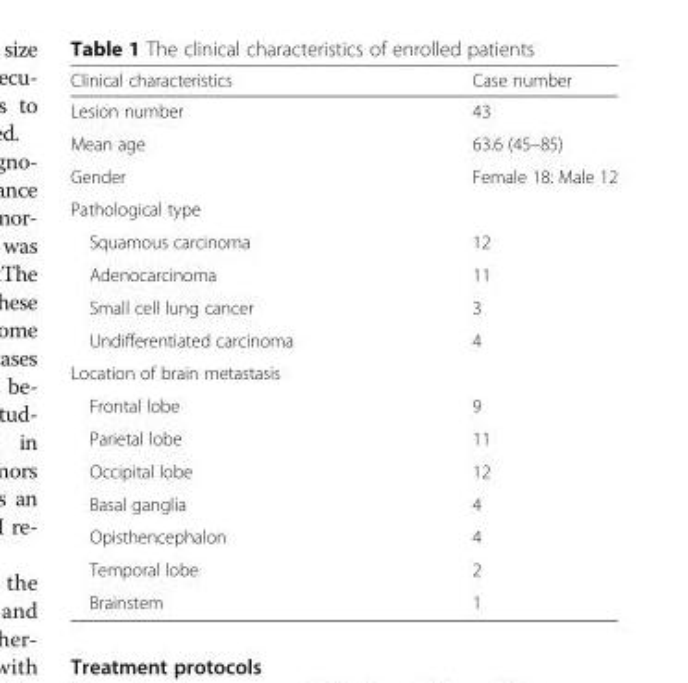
<table><thead><tr><td>Clinical characteristics</td><td>Case number</td></tr></thead><tbody><tr><td>Lesion number</td><td>43</td></tr><tr><td>Mean age</td><td>63.6 (45–85)</td></tr><tr><td>Gender</td><td>Female 18: Male 12</td></tr><tr><td colspan="2">Pathological type</td></tr><tr><td>Squamous carcinoma</td><td>12</td></tr><tr><td>Adenocarcinoma</td><td>11</td></tr><tr><td>Small cell lung cancer</td><td>3</td></tr><tr><td>Undifferentiated carcinoma</td><td>4</td></tr><tr><td colspan="2">Location of brain metastasis</td></tr><tr><td>Frontal lobe</td><td>9</td></tr><tr><td>Parietal lobe</td><td>11</td></tr><tr><td>Occipital lobe</td><td>12</td></tr><tr><td>Basal ganglia</td><td>4</td></tr><tr><td>Opisthencephalon</td><td>4</td></tr><tr><td>Temporal lobe</td><td>2</td></tr><tr><td>Brainstem</td><td>1</td></tr></tbody></table>